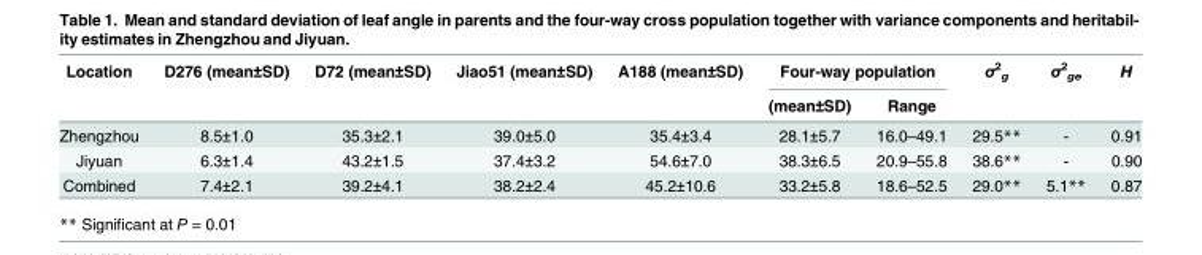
<table><thead><tr><td rowspan="2">Location</td><td rowspan="2">D276 (mean±SD)</td><td rowspan="2">D72 (mean±SD)</td><td rowspan="2">Jiao51 (mean±SD)</td><td rowspan="2">A188 (mean±SD)</td><td colspan="2">Four-way population</td><td rowspan="2">σ<sup>2</sup> <sub>g</sub></td><td rowspan="2">σ<sup>2</sup> <sub>ge</sub></td><td rowspan="2">H</td></tr><tr><td>(mean±SD)</td><td>Range</td></tr></thead><tbody><tr><td>Zhengzhou</td><td>8.5±1.0</td><td>35.3±2.1</td><td>39.0±5.0</td><td>35.4±3.4</td><td>28.1±5.7</td><td>16.0–49.1</td><td>29.5**</td><td>-</td><td>0.91</td></tr><tr><td>Jiyuan</td><td>6.3±1.4</td><td>43.2±1.5</td><td>37.4±3.2</td><td>54.6±7.0</td><td>38.3±6.5</td><td>20.9–55.8</td><td>38.6**</td><td>-</td><td>0.90</td></tr><tr><td>Combined</td><td>7.4±2.1</td><td>39.2±4.1</td><td>38.2±2.4</td><td>45.2±10.6</td><td>33.2±5.8</td><td>18.6–52.5</td><td>29.0**</td><td>5.1**</td><td>0.87</td></tr></tbody></table>